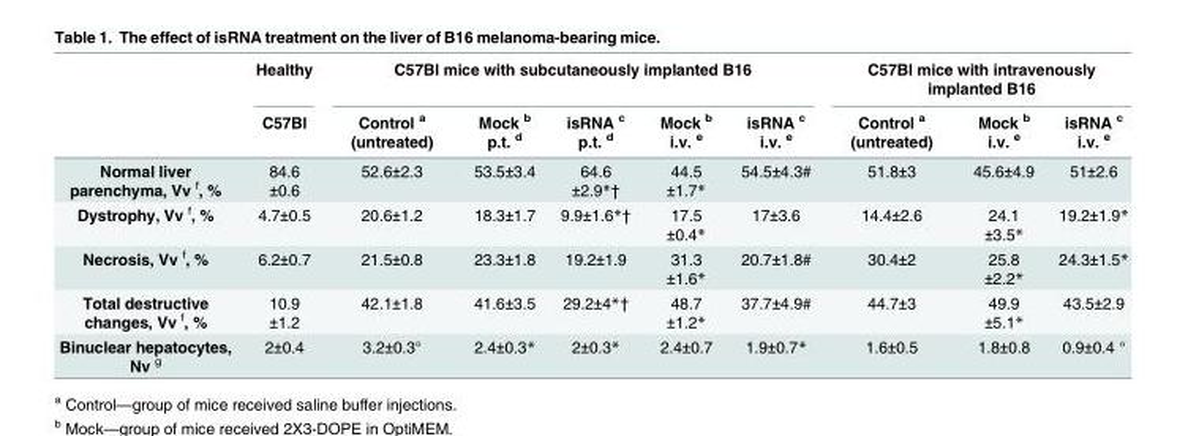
<table><thead><tr><td rowspan="2"></td><td rowspan="2">Healthy C57Bl</td><td colspan="5">C57Bl mice with subcutaneously implanted B16</td><td colspan="3">C57Bl mice with intravenously implanted B16</td></tr><tr><td>Control <sup>a</sup> (untreated)</td><td>Mock <sup>b</sup> p.t. <sup>d</sup></td><td>isRNA <sup>c</sup> p.t. <sup>d</sup></td><td>Mock <sup>b</sup> i.v. <sup>e</sup></td><td>isRNA <sup>c</sup> i.v. <sup>e</sup></td><td>Control <sup>a</sup> (untreated)</td><td>Mock <sup>b</sup> i.v. <sup>e</sup></td><td>isRNA <sup>c</sup> i.v. <sup>e</sup></td></tr></thead><tbody><tr><td>Normal liver parenchyma, Vv <sup>f</sup>, %</td><td>84.6 ±0.6</td><td>52.6±2.3</td><td>53.5±3.4</td><td>64.6 ±2.9*†</td><td>44.5 ±1.7*</td><td>54.5±4.3#</td><td>51.8±3</td><td>45.6±4.9</td><td>51±2.6</td></tr><tr><td>Dystrophy, Vv <sup>f</sup>, %</td><td>4.7±0.5</td><td>20.6±1.2</td><td>18.3±1.7</td><td>9.9±1.6*†</td><td>17.5 ±0.4*</td><td>17±3.6</td><td>14.4±2.6</td><td>24.1 ±3.5*</td><td>19.2±1.9*</td></tr><tr><td>Necrosis, Vv <sup>f</sup>, %</td><td>6.2±0.7</td><td>21.5±0.8</td><td>23.3±1.8</td><td>19.2±1.9</td><td>31.3 ±1.6*</td><td>20.7±1.8#</td><td>30.4±2</td><td>25.8 ±2.2*</td><td>24.3±1.5*</td></tr><tr><td>Total destructive changes, Vv <sup>f</sup>, %</td><td>10.9 ±1.2</td><td>42.1±1.8</td><td>41.6±3.5</td><td>29.2±4*†</td><td>48.7 ±1.2*</td><td>37.7±4.9#</td><td>44.7±3</td><td>49.9 ±5.1*</td><td>43.5±2.9</td></tr><tr><td>Binuclear hepatocytes, Nv <sup>g</sup></td><td>2±0.4</td><td>3.2±0.3°</td><td>2.4±0.3*</td><td>2±0.3*</td><td>2.4±0.7</td><td>1.9±0.7*</td><td>1.6±0.5</td><td>1.8±0.8</td><td>0.9±0.4 °</td></tr></tbody></table>